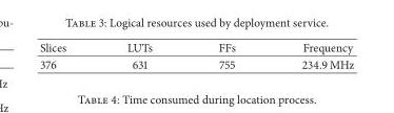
<table><thead><tr><td>Slices</td><td>LUTs</td><td>FFs</td><td>Frequency</td></tr></thead><tbody><tr><td>376</td><td>631</td><td>755</td><td>234.9 MHz</td></tr></tbody></table>